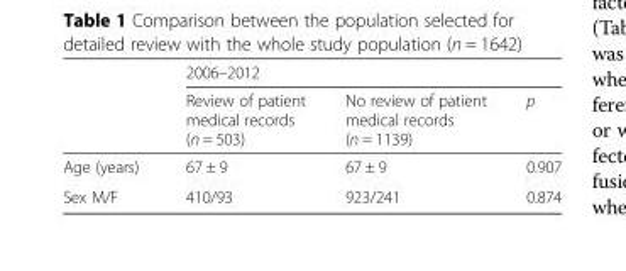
<table><thead><tr><td rowspan="2"></td><td colspan="3">2006–2012</td></tr><tr><td>Review of patient medical records (n = 503)</td><td>No review of patient medical records (n = 1139)</td><td>p</td></tr></thead><tbody><tr><td>Age (years)</td><td>67 ± 9</td><td>67 ± 9</td><td>0.907</td></tr><tr><td>Sex M/F</td><td>410/93</td><td>923/241</td><td>0.874</td></tr></tbody></table>